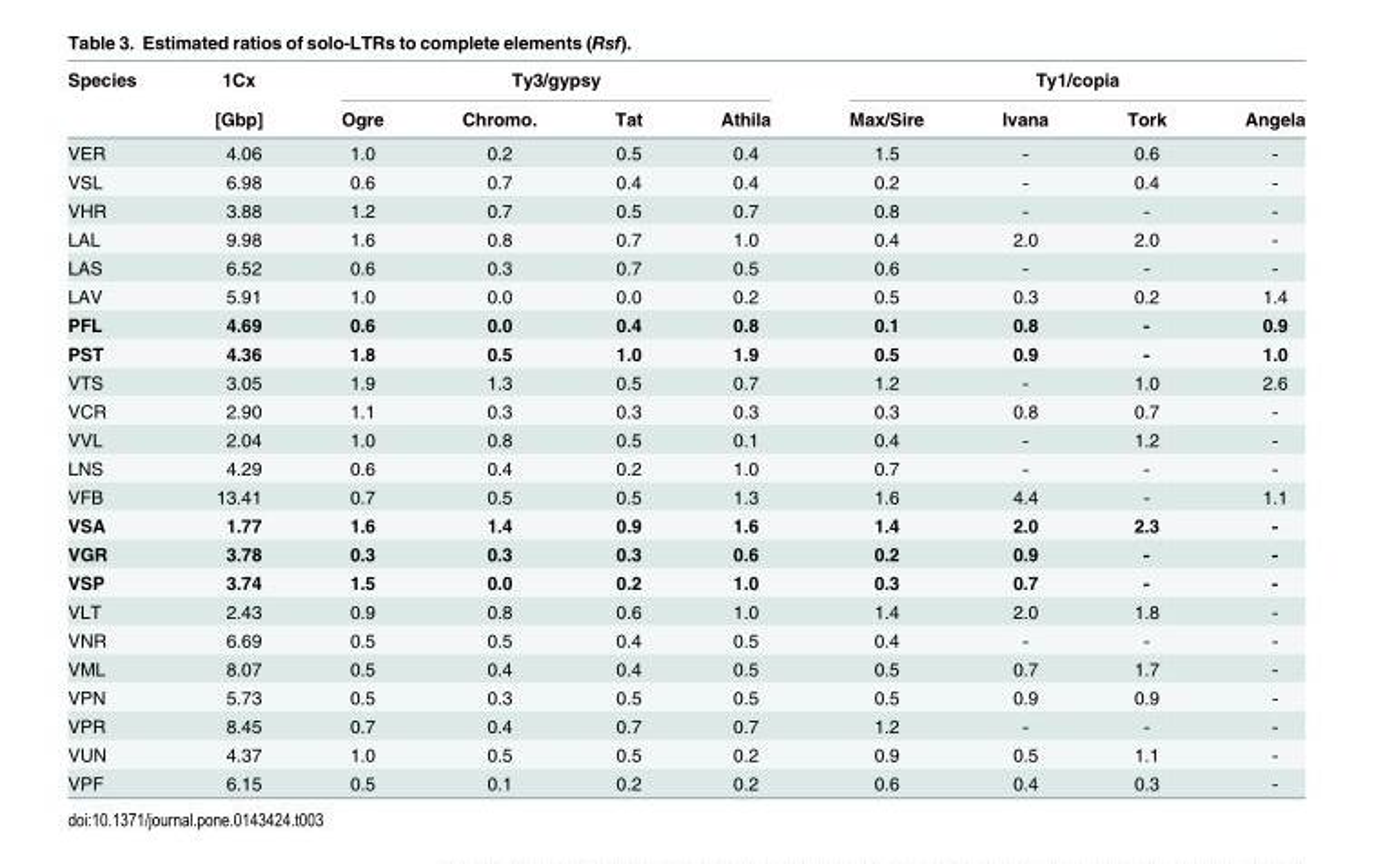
<table><thead><tr><td rowspan="2">Species</td><td rowspan="2">1Cx [Gbp]</td><td colspan="4">Ty3/gypsy</td><td colspan="4">Ty1/copia</td></tr><tr><td>Ogre</td><td>Chromo.</td><td>Tat</td><td>Athila</td><td>Max/Sire</td><td>Ivana</td><td>Tork</td><td>Angela</td></tr></thead><tbody><tr><td>VER</td><td>4.06</td><td>1.0</td><td>0.2</td><td>0.5</td><td>0.4</td><td>1.5</td><td>-</td><td>0.6</td><td>-</td></tr><tr><td>VSL</td><td>6.98</td><td>0.6</td><td>0.7</td><td>0.4</td><td>0.4</td><td>0.2</td><td>-</td><td>0.4</td><td>-</td></tr><tr><td>VHR</td><td>3.88</td><td>1.2</td><td>0.7</td><td>0.5</td><td>0.7</td><td>0.8</td><td>-</td><td>-</td><td>-</td></tr><tr><td>LAL</td><td>9.98</td><td>1.6</td><td>0.8</td><td>0.7</td><td>1.0</td><td>0.4</td><td>2.0</td><td>2.0</td><td>-</td></tr><tr><td>LAS</td><td>6.52</td><td>0.6</td><td>0.3</td><td>0.7</td><td>0.5</td><td>0.6</td><td>-</td><td>-</td><td>-</td></tr><tr><td>LAV</td><td>5.91</td><td>1.0</td><td>0.0</td><td>0.0</td><td>0.2</td><td>0.5</td><td>0.3</td><td>0.2</td><td>1.4</td></tr><tr><td>PFL</td><td>4.69</td><td>0.6</td><td>0.0</td><td>0.4</td><td>0.8</td><td>0.1</td><td>0.8</td><td>-</td><td>0.9</td></tr><tr><td>PST</td><td>4.36</td><td>1.8</td><td>0.5</td><td>1.0</td><td>1.9</td><td>0.5</td><td>0.9</td><td>-</td><td>1.0</td></tr><tr><td>VTS</td><td>3.05</td><td>1.9</td><td>1.3</td><td>0.5</td><td>0.7</td><td>1.2</td><td>-</td><td>1.0</td><td>2.6</td></tr><tr><td>VCR</td><td>2.90</td><td>1.1</td><td>0.3</td><td>0.3</td><td>0.3</td><td>0.3</td><td>0.8</td><td>0.7</td><td>-</td></tr><tr><td>VVL</td><td>2.04</td><td>1.0</td><td>0.8</td><td>0.5</td><td>0.1</td><td>0.4</td><td>-</td><td>1.2</td><td>-</td></tr><tr><td>LNS</td><td>4.29</td><td>0.6</td><td>0.4</td><td>0.2</td><td>1.0</td><td>0.7</td><td>-</td><td>-</td><td>-</td></tr><tr><td>VFB</td><td>13.41</td><td>0.7</td><td>0.5</td><td>0.5</td><td>1.3</td><td>1.6</td><td>4.4</td><td>-</td><td>1.1</td></tr><tr><td>VSA</td><td>1.77</td><td>1.6</td><td>1.4</td><td>0.9</td><td>1.6</td><td>1.4</td><td>2.0</td><td>2.3</td><td>-</td></tr><tr><td>VGR</td><td>3.78</td><td>0.3</td><td>0.3</td><td>0.3</td><td>0.6</td><td>0.2</td><td>0.9</td><td>-</td><td>-</td></tr><tr><td>VSP</td><td>3.74</td><td>1.5</td><td>0.0</td><td>0.2</td><td>1.0</td><td>0.3</td><td>0.7</td><td>-</td><td>-</td></tr><tr><td>VLT</td><td>2.43</td><td>0.9</td><td>0.8</td><td>0.6</td><td>1.0</td><td>1.4</td><td>2.0</td><td>1.8</td><td>-</td></tr><tr><td>VNR</td><td>6.69</td><td>0.5</td><td>0.5</td><td>0.4</td><td>0.5</td><td>0.4</td><td>-</td><td>-</td><td>-</td></tr><tr><td>VML</td><td>8.07</td><td>0.5</td><td>0.4</td><td>0.4</td><td>0.5</td><td>0.5</td><td>0.7</td><td>1.7</td><td>-</td></tr><tr><td>VPN</td><td>5.73</td><td>0.5</td><td>0.3</td><td>0.5</td><td>0.5</td><td>0.5</td><td>0.9</td><td>0.9</td><td>-</td></tr><tr><td>VPR</td><td>8.45</td><td>0.7</td><td>0.4</td><td>0.7</td><td>0.7</td><td>1.2</td><td>-</td><td>-</td><td>-</td></tr><tr><td>VUN</td><td>4.37</td><td>1.0</td><td>0.5</td><td>0.5</td><td>0.2</td><td>0.9</td><td>0.5</td><td>1.1</td><td>-</td></tr><tr><td>VPF</td><td>6.15</td><td>0.5</td><td>0.1</td><td>0.2</td><td>0.2</td><td>0.6</td><td>0.4</td><td>0.3</td><td>-</td></tr></tbody></table>